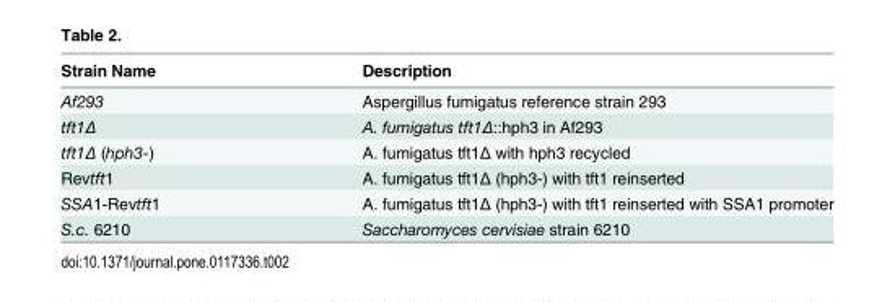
<table><thead><tr><td>Strain Name</td><td>Description</td></tr></thead><tbody><tr><td>Af293</td><td>Aspergillus fumigatus reference strain 293</td></tr><tr><td>tft1Δ</td><td>A. fumigatus tft1Δ::hph3 in Af293</td></tr><tr><td>tft1Δ (hph3-)</td><td>A. fumigatus tft1Δ with hph3 recycled</td></tr><tr><td>Revtft1</td><td>A. fumigatus tft1Δ (hph3-) with tft1 reinserted</td></tr><tr><td>SSA1-Revtft1</td><td>A. fumigatus tft1Δ (hph3-) with tft1 reinserted with SSA1 promoter</td></tr><tr><td>S.c. 6210</td><td>Saccharomyces cervisiae strain 6210</td></tr></tbody></table>